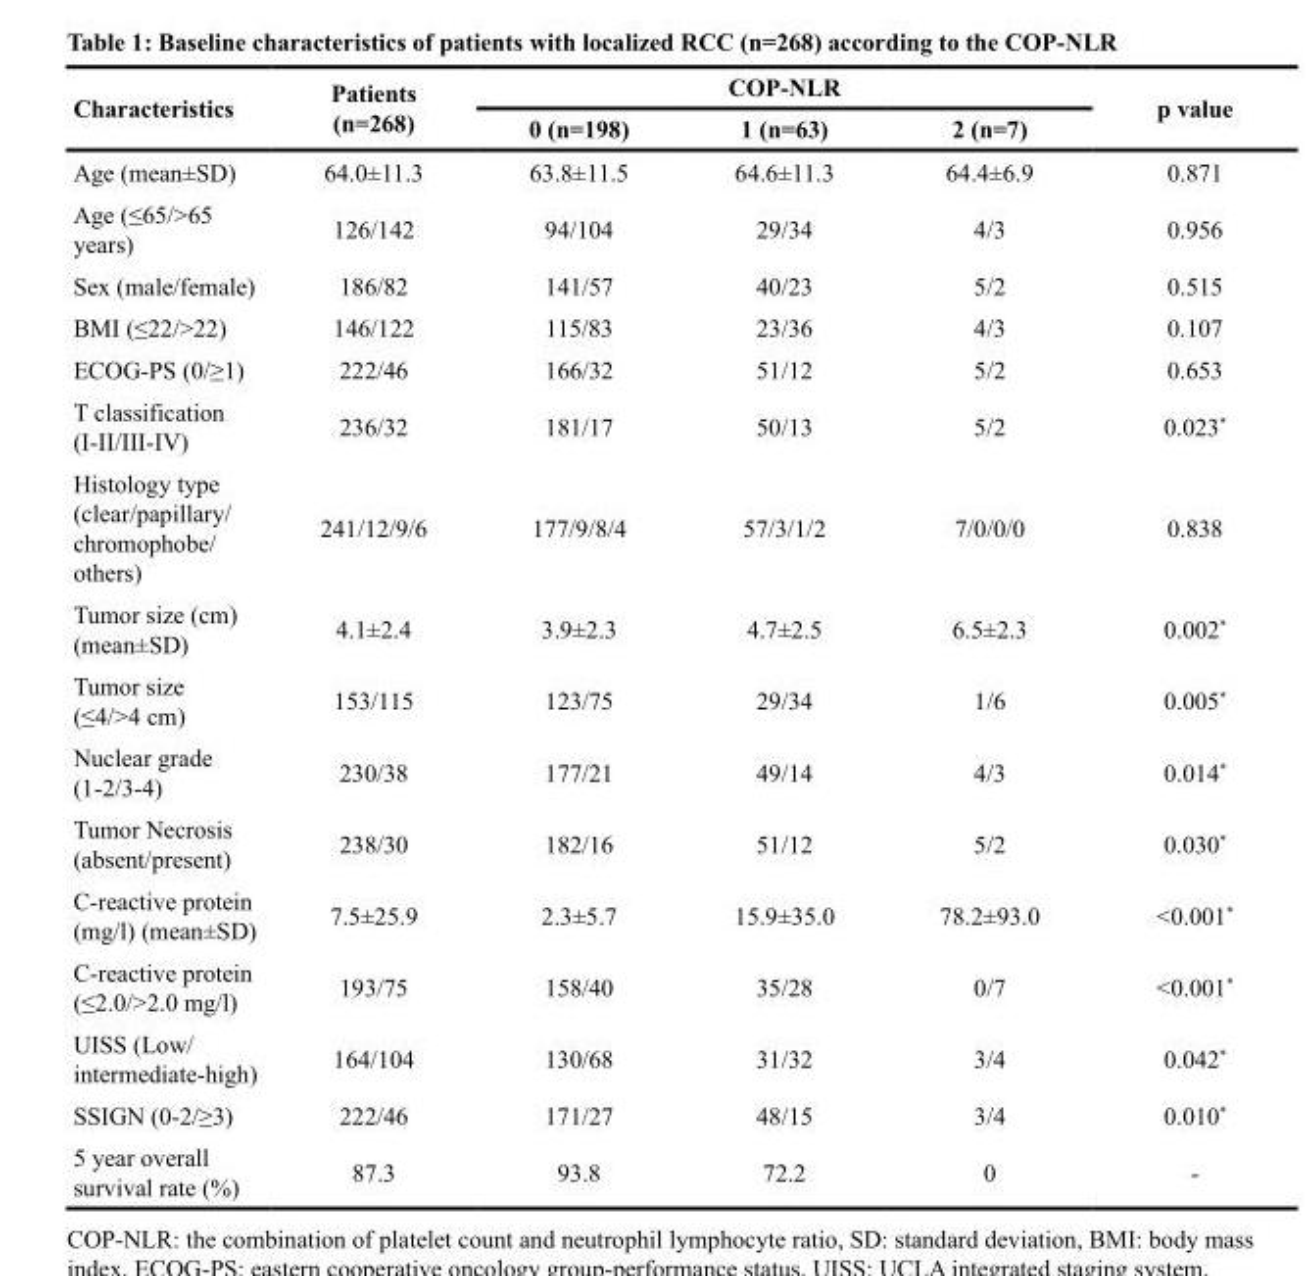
<table><thead><tr><td rowspan="2">Characteristics</td><td rowspan="2">Patients (n=268)</td><td colspan="3">COP-NLR</td><td rowspan="2">p value</td></tr><tr><td>0 (n=198)</td><td>1 (n=63)</td><td>2 (n=7)</td></tr></thead><tbody><tr><td>Age (mean±SD)</td><td>64.0±11.3</td><td>63.8±11.5</td><td>64.6±11.3</td><td>64.4±6.9</td><td>0.871</td></tr><tr><td>Age (≤65/&gt;65 years)</td><td>126/142</td><td>94/104</td><td>29/34</td><td>4/3</td><td>0.956</td></tr><tr><td>Sex (male/female)</td><td>186/82</td><td>141/57</td><td>40/23</td><td>5/2</td><td>0.515</td></tr><tr><td>BMI (≤22/&gt;22)</td><td>146/122</td><td>115/83</td><td>23/36</td><td>4/3</td><td>0.107</td></tr><tr><td>ECOG-PS (0/≥1)</td><td>222/46</td><td>166/32</td><td>51/12</td><td>5/2</td><td>0.653</td></tr><tr><td>T classification (I-II/III-IV)</td><td>236/32</td><td>181/17</td><td>50/13</td><td>5/2</td><td>0.023*</td></tr><tr><td>Histology type (clear/papillary/ chromophobe/ others)</td><td>241/12/9/6</td><td>177/9/8/4</td><td>57/3/1/2</td><td>7/0/0/0</td><td>0.838</td></tr><tr><td>Tumor size (cm) (mean±SD)</td><td>4.1±2.4</td><td>3.9±2.3</td><td>4.7±2.5</td><td>6.5±2.3</td><td>0.002*</td></tr><tr><td>Tumor size (≤4/&gt;4 cm)</td><td>153/115</td><td>123/75</td><td>29/34</td><td>1/6</td><td>0.005*</td></tr><tr><td>Nuclear grade (1-2/3-4)</td><td>230/38</td><td>177/21</td><td>49/14</td><td>4/3</td><td>0.014*</td></tr><tr><td>Tumor Necrosis (absent/present)</td><td>238/30</td><td>182/16</td><td>51/12</td><td>5/2</td><td>0.030*</td></tr><tr><td>C-reactive protein (mg/l) (mean±SD)</td><td>7.5±25.9</td><td>2.3±5.7</td><td>15.9±35.0</td><td>78.2±93.0</td><td>&lt;0.001*</td></tr><tr><td>C-reactive protein (≤2.0/&gt;2.0 mg/l)</td><td>193/75</td><td>158/40</td><td>35/28</td><td>0/7</td><td>&lt;0.001*</td></tr><tr><td>UISS (Low/ intermediate-high)</td><td>164/104</td><td>130/68</td><td>31/32</td><td>3/4</td><td>0.042*</td></tr><tr><td>SSIGN (0-2/≥3)</td><td>222/46</td><td>171/27</td><td>48/15</td><td>3/4</td><td>0.010*</td></tr><tr><td>5 year overall survival rate (%)</td><td>87.3</td><td>93.8</td><td>72.2</td><td>0</td><td>-</td></tr></tbody></table>